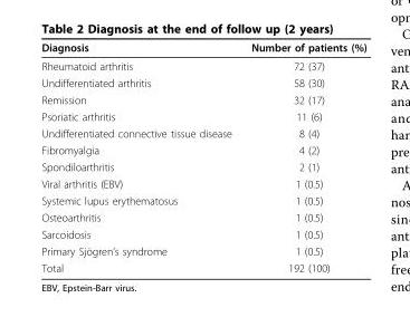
<table><thead><tr><td>Diagnosis</td><td>Number of patients (%)</td></tr></thead><tbody><tr><td>Rheumatoid arthritis</td><td>72 (37)</td></tr><tr><td>Undifferentiated arthritis</td><td>58 (30)</td></tr><tr><td>Remission</td><td>32 (17)</td></tr><tr><td>Psoriatic arthritis</td><td>11 (6)</td></tr><tr><td>Undifferentiated connective tissue disease</td><td>8 (4)</td></tr><tr><td>Fibromyalgia</td><td>4 (2)</td></tr><tr><td>Spondiloarthritis</td><td>2 (1)</td></tr><tr><td>Viral arthritis (EBV)</td><td>1 (0.5)</td></tr><tr><td>Systemic lupus erythematosus</td><td>1 (0.5)</td></tr><tr><td>Osteoarthritis</td><td>1 (0.5)</td></tr><tr><td>Sarcoidosis</td><td>1 (0.5)</td></tr><tr><td>Primary Sjögren’s syndrome</td><td>1 (0.5)</td></tr><tr><td>Total</td><td>192 (100)</td></tr></tbody></table>